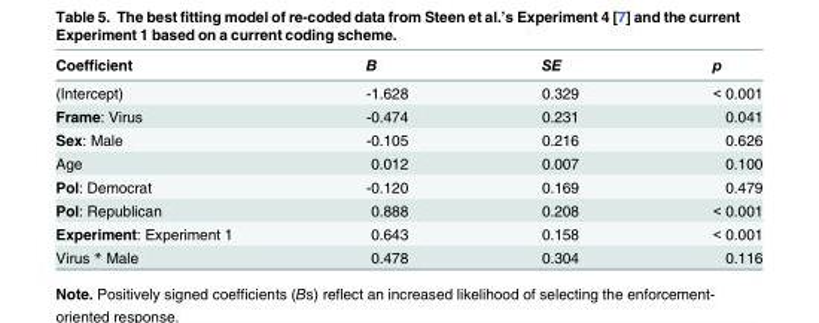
<table><thead><tr><td>Coefficient</td><td>B</td><td>SE</td><td>p</td></tr></thead><tbody><tr><td>(Intercept)</td><td>-1.628</td><td>0.329</td><td>&lt; 0.001</td></tr><tr><td>Frame: Virus</td><td>-0.474</td><td>0.231</td><td>0.041</td></tr><tr><td>Sex: Male</td><td>-0.105</td><td>0.216</td><td>0.626</td></tr><tr><td>Age</td><td>0.012</td><td>0.007</td><td>0.100</td></tr><tr><td>Pol: Democrat</td><td>-0.120</td><td>0.169</td><td>0.479</td></tr><tr><td>Pol: Republican</td><td>0.888</td><td>0.208</td><td>&lt; 0.001</td></tr><tr><td>Experiment: Experiment 1</td><td>0.643</td><td>0.158</td><td>&lt; 0.001</td></tr><tr><td>Virus * Male</td><td>0.478</td><td>0.304</td><td>0.116</td></tr></tbody></table>